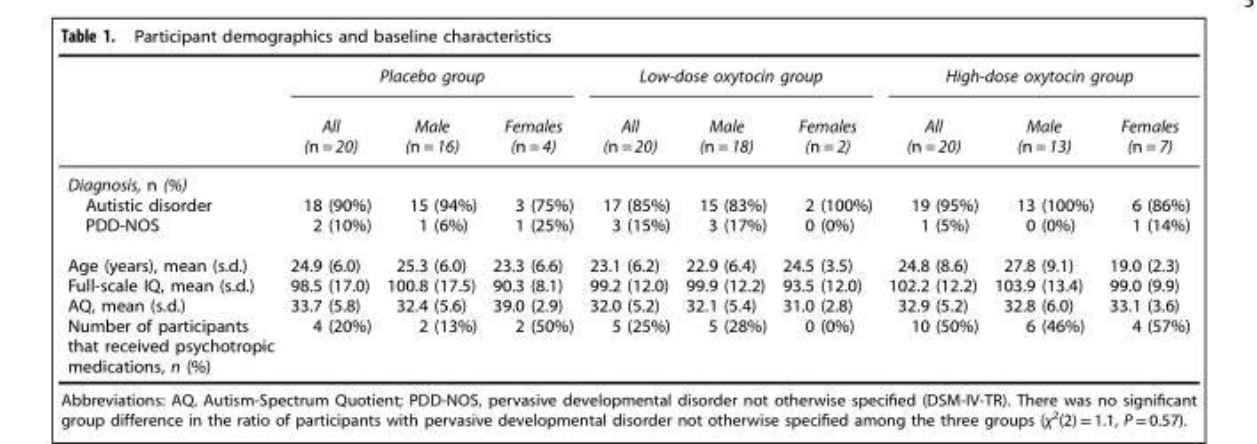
<table><thead><tr><td rowspan="2"></td><td colspan="3">Placebo group</td><td colspan="3">Low-dose oxytocin group</td><td colspan="3">High-dose oxytocin group</td></tr><tr><td>All (n = 20)</td><td>Male (n = 16)</td><td>Females (n = 4)</td><td>All (n = 20)</td><td>Male (n = 18)</td><td>Females (n = 2)</td><td>All (n = 20)</td><td>Male (n = 13)</td><td>Females (n = 7)</td></tr></thead><tbody><tr><td colspan="10">Diagnosis, n (%)</td></tr><tr><td>Autistic disorder</td><td>18 (90%)</td><td>15 (94%)</td><td>3 (75%)</td><td>17 (85%)</td><td>15 (83%)</td><td>2 (100%)</td><td>19 (95%)</td><td>13 (100%)</td><td>6 (86%)</td></tr><tr><td>PDD-NOS</td><td>2 (10%)</td><td>1 (6%)</td><td>1 (25%)</td><td>3 (15%)</td><td>3 (17%)</td><td>0 (0%)</td><td>1 (5%)</td><td>0 (0%)</td><td>1 (14%)</td></tr><tr><td>Age (years), mean (s.d.)</td><td>24.9 (6.0)</td><td>25.3 (6.0)</td><td>23.3 (6.6)</td><td>23.1 (6.2)</td><td>22.9 (6.4)</td><td>24.5 (3.5)</td><td>24.8 (8.6)</td><td>27.8 (9.1)</td><td>19.0 (2.3)</td></tr><tr><td>Full-scale IQ, mean (s.d.)</td><td>98.5 (17.0)</td><td>100.8 (17.5)</td><td>90.3 (8.1)</td><td>99.2 (12.0)</td><td>99.9 (12.2)</td><td>93.5 (12.0)</td><td>102.2 (12.2)</td><td>103.9 (13.4)</td><td>99.0 (9.9)</td></tr><tr><td>AQ, mean (s.d.)</td><td>33.7 (5.8)</td><td>32.4 (5.6)</td><td>39.0 (2.9)</td><td>32.0 (5.2)</td><td>32.1 (5.4)</td><td>31.0 (2.8)</td><td>32.9 (5.2)</td><td>32.8 (6.0)</td><td>33.1 (3.6)</td></tr><tr><td>Number of participants that received psychotropic medications, n (%)</td><td>4 (20%)</td><td>2 (13%)</td><td>2 (50%)</td><td>5 (25%)</td><td>5 (28%)</td><td>0 (0%)</td><td>10 (50%)</td><td>6 (46%)</td><td>4 (57%)</td></tr></tbody></table>